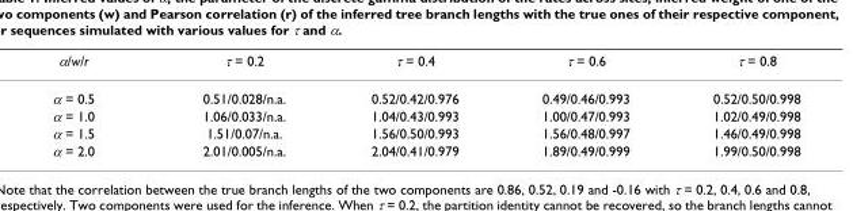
<table><thead><tr><td>α/w/r</td><td>τ = 0.2</td><td>τ = 0.4</td><td>τ = 0.6</td><td>τ = 0.8</td></tr></thead><tbody><tr><td>α = 0.5</td><td>0.51/0.028/n.a.</td><td>0.52/0.42/0.976</td><td>0.49/0.46/0.993</td><td>0.52/0.50/0.998</td></tr><tr><td>α = 1.0</td><td>1.06/0.033/n.a.</td><td>1.04/0.43/0.993</td><td>1.00/0.47/0.993</td><td>1.02/0.49/0.998</td></tr><tr><td>α = 1.5</td><td>1.51/0.07/n.a.</td><td>1.56/0.50/0.993</td><td>1.56/0.48/0.997</td><td>1.46/0.49/0.998</td></tr><tr><td>α = 2.0</td><td>2.01/0.005/n.a.</td><td>2.04/0.41/0.979</td><td>1.89/0.49/0.999</td><td>1.99/0.50/0.998</td></tr></tbody></table>